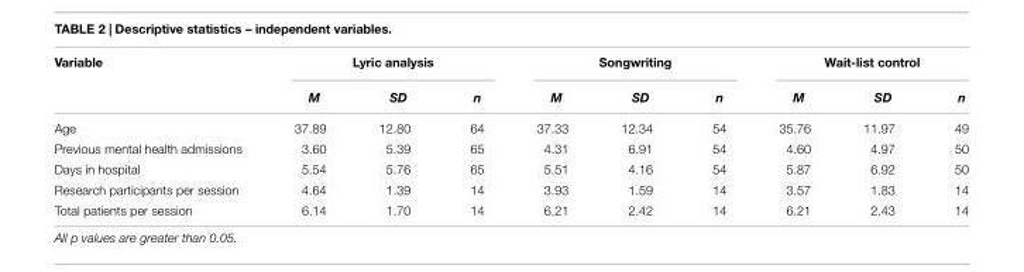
<table><thead><tr><td rowspan="2">Variable</td><td colspan="3">Lyric analysis</td><td colspan="3">Songwriting</td><td colspan="3">Wait-list control</td></tr><tr><td>M</td><td>SD</td><td>n</td><td>M</td><td>SD</td><td>n</td><td>M</td><td>SD</td><td>n</td></tr></thead><tbody><tr><td>Age</td><td>37.89</td><td>12.80</td><td>64</td><td>37.33</td><td>12.34</td><td>54</td><td>35.76</td><td>11.97</td><td>49</td></tr><tr><td>Previous mental health admissions</td><td>3.60</td><td>5.39</td><td>65</td><td>4.31</td><td>6.91</td><td>54</td><td>4.60</td><td>4.97</td><td>50</td></tr><tr><td>Days in hospital</td><td>5.54</td><td>5.76</td><td>65</td><td>5.51</td><td>4.16</td><td>54</td><td>5.87</td><td>6.92</td><td>50</td></tr><tr><td>Research participants per session</td><td>4.64</td><td>1.39</td><td>14</td><td>3.93</td><td>1.59</td><td>14</td><td>3.57</td><td>1.83</td><td>14</td></tr><tr><td>Total patients per session</td><td>6.14</td><td>1.70</td><td>14</td><td>6.21</td><td>2.42</td><td>14</td><td>6.21</td><td>2.43</td><td>14</td></tr></tbody></table>